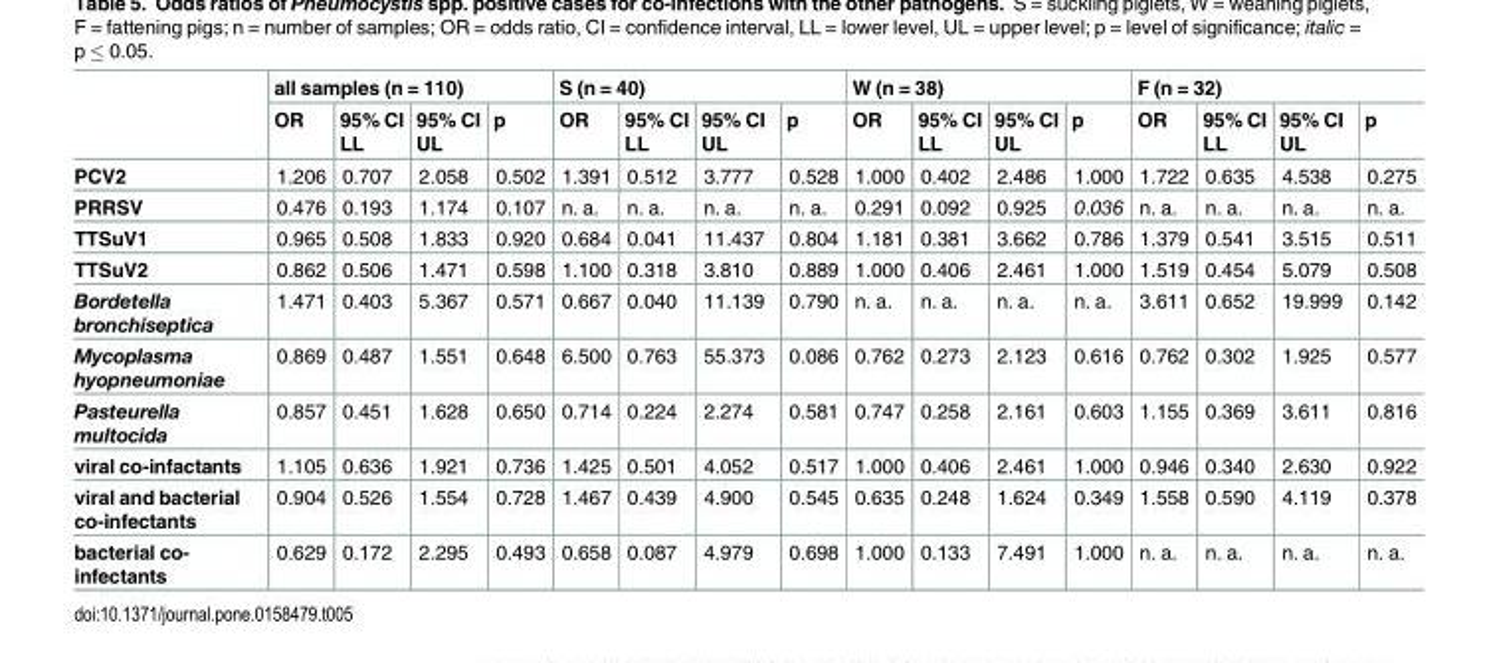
<table><thead><tr><td rowspan="2"></td><td colspan="4">all samples (n = 110)</td><td colspan="4">S (n = 40)</td><td colspan="4">W (n = 38)</td><td colspan="4">F (n = 32)</td></tr><tr><td>OR</td><td>95% CI LL</td><td>95% CI UL</td><td>p</td><td>OR</td><td>95% CI LL</td><td>95% CI UL</td><td>p</td><td>OR</td><td>95% CI LL</td><td>95% CI UL</td><td>p</td><td>OR</td><td>95% CI LL</td><td>95% CI UL</td><td>p</td></tr></thead><tbody><tr><td>PCV2</td><td>1.206</td><td>0.707</td><td>2.058</td><td>0.502</td><td>1.391</td><td>0.512</td><td>3.777</td><td>0.528</td><td>1.000</td><td>0.402</td><td>2.486</td><td>1.000</td><td>1.722</td><td>0.635</td><td>4.538</td><td>0.275</td></tr><tr><td>PRRSV</td><td>0.476</td><td>0.193</td><td>1.174</td><td>0.107</td><td>n. a.</td><td>n. a.</td><td>n. a.</td><td>n. a.</td><td>0.291</td><td>0.092</td><td>0.925</td><td>0.036</td><td>n. a.</td><td>n. a.</td><td>n. a.</td><td>n. a.</td></tr><tr><td>TTSuV1</td><td>0.965</td><td>0.508</td><td>1.833</td><td>0.920</td><td>0.684</td><td>0.041</td><td>11.437</td><td>0.804</td><td>1.181</td><td>0.381</td><td>3.662</td><td>0.786</td><td>1.379</td><td>0.541</td><td>3.515</td><td>0.511</td></tr><tr><td>TTSuV2</td><td>0.862</td><td>0.506</td><td>1.471</td><td>0.598</td><td>1.100</td><td>0.318</td><td>3.810</td><td>0.889</td><td>1.000</td><td>0.406</td><td>2.461</td><td>1.000</td><td>1.519</td><td>0.454</td><td>5.079</td><td>0.508</td></tr><tr><td>Bordetella bronchiseptica</td><td>1.471</td><td>0.403</td><td>5.367</td><td>0.571</td><td>0.667</td><td>0.040</td><td>11.139</td><td>0.790</td><td>n. a.</td><td>n. a.</td><td>n. a.</td><td>n. a.</td><td>3.611</td><td>0.652</td><td>19.999</td><td>0.142</td></tr><tr><td>Mycoplasma hyopneumoniae</td><td>0.869</td><td>0.487</td><td>1.551</td><td>0.648</td><td>6.500</td><td>0.763</td><td>55.373</td><td>0.086</td><td>0.762</td><td>0.273</td><td>2.123</td><td>0.616</td><td>0.762</td><td>0.302</td><td>1.925</td><td>0.577</td></tr><tr><td>Pasteurella multocida</td><td>0.857</td><td>0.451</td><td>1.628</td><td>0.650</td><td>0.714</td><td>0.224</td><td>2.274</td><td>0.581</td><td>0.747</td><td>0.258</td><td>2.161</td><td>0.603</td><td>1.155</td><td>0.369</td><td>3.611</td><td>0.816</td></tr><tr><td>viral co-infactants</td><td>1.105</td><td>0.636</td><td>1.921</td><td>0.736</td><td>1.425</td><td>0.501</td><td>4.052</td><td>0.517</td><td>1.000</td><td>0.406</td><td>2.461</td><td>1.000</td><td>0.946</td><td>0.340</td><td>2.630</td><td>0.922</td></tr><tr><td>viral and bacterial co-infectants</td><td>0.904</td><td>0.526</td><td>1.554</td><td>0.728</td><td>1.467</td><td>0.439</td><td>4.900</td><td>0.545</td><td>0.635</td><td>0.248</td><td>1.624</td><td>0.349</td><td>1.558</td><td>0.590</td><td>4.119</td><td>0.378</td></tr><tr><td>bacterial co- infectants</td><td>0.629</td><td>0.172</td><td>2.295</td><td>0.493</td><td>0.658</td><td>0.087</td><td>4.979</td><td>0.698</td><td>1.000</td><td>0.133</td><td>7.491</td><td>1.000</td><td>n. a.</td><td>n. a.</td><td>n. a.</td><td>n. a.</td></tr></tbody></table>